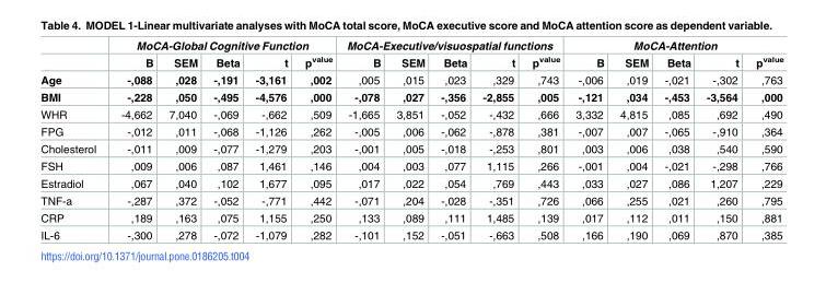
<table><thead><tr><td rowspan="2"></td><td colspan="5">MoCA-Global Cognitive Function</td><td colspan="5">MoCA-Executive/visuospatial functions</td><td colspan="5">MoCA-Attention</td></tr><tr><td>B</td><td>SEM</td><td>Beta</td><td>t</td><td>p<sup>value</sup></td><td>B</td><td>SEM</td><td>Beta</td><td>t</td><td>p<sup>value</sup></td><td>B</td><td>SEM</td><td>Beta</td><td>t</td><td>p<sup>value</sup></td></tr></thead><tbody><tr><td>Age</td><td>-,088</td><td>,028</td><td>-,191</td><td>-3,161</td><td>,002</td><td>,005</td><td>,015</td><td>,023</td><td>,329</td><td>,743</td><td>-,006</td><td>,019</td><td>-,021</td><td>-,302</td><td>,763</td></tr><tr><td>BMI</td><td>-,228</td><td>,050</td><td>-,495</td><td>-4,576</td><td>,000</td><td>-,078</td><td>,027</td><td>-,356</td><td>-2,855</td><td>,005</td><td>-,121</td><td>,034</td><td>-,453</td><td>-3,564</td><td>,000</td></tr><tr><td>WHR</td><td>-4,662</td><td>7,040</td><td>-,069</td><td>-,662</td><td>,509</td><td>-1,665</td><td>3,851</td><td>-,052</td><td>-,432</td><td>,666</td><td>3,332</td><td>4,815</td><td>,085</td><td>,692</td><td>,490</td></tr><tr><td>FPG</td><td>-,012</td><td>,011</td><td>-,068</td><td>-1,126</td><td>,262</td><td>-,005</td><td>,006</td><td>-,062</td><td>-,878</td><td>,381</td><td>-,007</td><td>,007</td><td>-,065</td><td>-,910</td><td>,364</td></tr><tr><td>Cholesterol</td><td>-,011</td><td>,009</td><td>-,077</td><td>-1,279</td><td>,203</td><td>-,001</td><td>,005</td><td>-,018</td><td>-,253</td><td>,801</td><td>,003</td><td>,006</td><td>,038</td><td>,540</td><td>,590</td></tr><tr><td>FSH</td><td>,009</td><td>,006</td><td>,087</td><td>1,461</td><td>,146</td><td>,004</td><td>,003</td><td>,077</td><td>1,115</td><td>,266</td><td>-,001</td><td>,004</td><td>-,021</td><td>-,298</td><td>,766</td></tr><tr><td>Estradiol</td><td>,067</td><td>,040</td><td>,102</td><td>1,677</td><td>,095</td><td>,017</td><td>,022</td><td>,054</td><td>,769</td><td>,443</td><td>,033</td><td>,027</td><td>,086</td><td>1,207</td><td>,229</td></tr><tr><td>TNF-a</td><td>-,287</td><td>,372</td><td>-,052</td><td>-,771</td><td>,442</td><td>-,071</td><td>,204</td><td>-,028</td><td>-,351</td><td>,726</td><td>,066</td><td>,255</td><td>,021</td><td>,260</td><td>,795</td></tr><tr><td>CRP</td><td>,189</td><td>,163</td><td>,075</td><td>1,155</td><td>,250</td><td>,133</td><td>,089</td><td>,111</td><td>1,485</td><td>,139</td><td>,017</td><td>,112</td><td>,011</td><td>,150</td><td>,881</td></tr><tr><td>IL-6</td><td>-,300</td><td>,278</td><td>-,072</td><td>-1,079</td><td>,282</td><td>-,101</td><td>,152</td><td>-,051</td><td>-,663</td><td>,508</td><td>,166</td><td>,190</td><td>,069</td><td>,870</td><td>,385</td></tr></tbody></table>